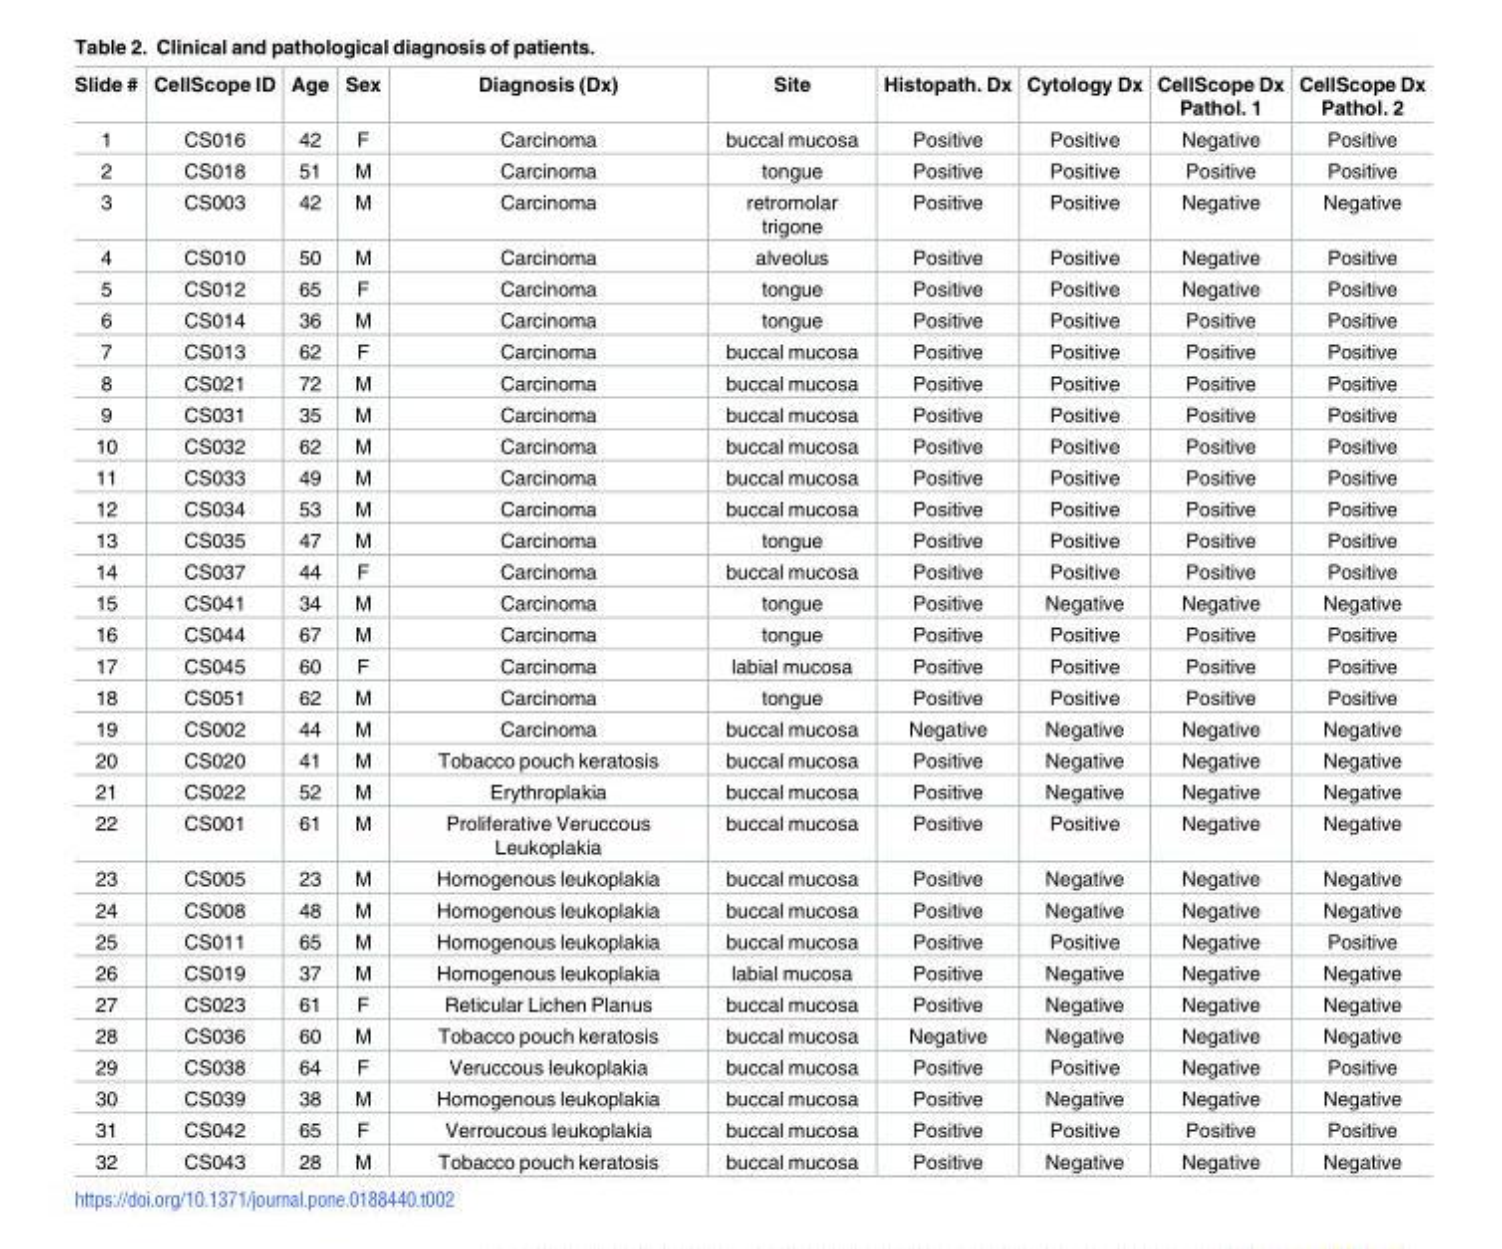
<table><thead><tr><td>Slide #</td><td>CellScope ID</td><td>Age</td><td>Sex</td><td>Diagnosis (Dx)</td><td>Site</td><td>Histopath. Dx</td><td>Cytology Dx</td><td>CellScope Dx Pathol. 1</td><td>CellScope Dx Pathol. 2</td></tr></thead><tbody><tr><td>1</td><td>CS016</td><td>42</td><td>F</td><td>Carcinoma</td><td>buccal mucosa</td><td>Positive</td><td>Positive</td><td>Negative</td><td>Positive</td></tr><tr><td>2</td><td>CS018</td><td>51</td><td>M</td><td>Carcinoma</td><td>tongue</td><td>Positive</td><td>Positive</td><td>Positive</td><td>Positive</td></tr><tr><td>3</td><td>CS003</td><td>42</td><td>M</td><td>Carcinoma</td><td>retromolar trigone</td><td>Positive</td><td>Positive</td><td>Negative</td><td>Negative</td></tr><tr><td>4</td><td>CS010</td><td>50</td><td>M</td><td>Carcinoma</td><td>alveolus</td><td>Positive</td><td>Positive</td><td>Negative</td><td>Positive</td></tr><tr><td>5</td><td>CS012</td><td>65</td><td>F</td><td>Carcinoma</td><td>tongue</td><td>Positive</td><td>Positive</td><td>Negative</td><td>Positive</td></tr><tr><td>6</td><td>CS014</td><td>36</td><td>M</td><td>Carcinoma</td><td>tongue</td><td>Positive</td><td>Positive</td><td>Positive</td><td>Positive</td></tr><tr><td>7</td><td>CS013</td><td>62</td><td>F</td><td>Carcinoma</td><td>buccal mucosa</td><td>Positive</td><td>Positive</td><td>Positive</td><td>Positive</td></tr><tr><td>8</td><td>CS021</td><td>72</td><td>M</td><td>Carcinoma</td><td>buccal mucosa</td><td>Positive</td><td>Positive</td><td>Positive</td><td>Positive</td></tr><tr><td>9</td><td>CS031</td><td>35</td><td>M</td><td>Carcinoma</td><td>buccal mucosa</td><td>Positive</td><td>Positive</td><td>Positive</td><td>Positive</td></tr><tr><td>10</td><td>CS032</td><td>62</td><td>M</td><td>Carcinoma</td><td>buccal mucosa</td><td>Positive</td><td>Positive</td><td>Positive</td><td>Positive</td></tr><tr><td>11</td><td>CS033</td><td>49</td><td>M</td><td>Carcinoma</td><td>buccal mucosa</td><td>Positive</td><td>Positive</td><td>Positive</td><td>Positive</td></tr><tr><td>12</td><td>CS034</td><td>53</td><td>M</td><td>Carcinoma</td><td>buccal mucosa</td><td>Positive</td><td>Positive</td><td>Positive</td><td>Positive</td></tr><tr><td>13</td><td>CS035</td><td>47</td><td>M</td><td>Carcinoma</td><td>tongue</td><td>Positive</td><td>Positive</td><td>Positive</td><td>Positive</td></tr><tr><td>14</td><td>CS037</td><td>44</td><td>F</td><td>Carcinoma</td><td>buccal mucosa</td><td>Positive</td><td>Positive</td><td>Positive</td><td>Positive</td></tr><tr><td>15</td><td>CS041</td><td>34</td><td>M</td><td>Carcinoma</td><td>tongue</td><td>Positive</td><td>Negative</td><td>Negative</td><td>Negative</td></tr><tr><td>16</td><td>CS044</td><td>67</td><td>M</td><td>Carcinoma</td><td>tongue</td><td>Positive</td><td>Positive</td><td>Positive</td><td>Positive</td></tr><tr><td>17</td><td>CS045</td><td>60</td><td>F</td><td>Carcinoma</td><td>labial mucosa</td><td>Positive</td><td>Positive</td><td>Positive</td><td>Positive</td></tr><tr><td>18</td><td>CS051</td><td>62</td><td>M</td><td>Carcinoma</td><td>tongue</td><td>Positive</td><td>Positive</td><td>Positive</td><td>Positive</td></tr><tr><td>19</td><td>CS002</td><td>44</td><td>M</td><td>Carcinoma</td><td>buccal mucosa</td><td>Negative</td><td>Negative</td><td>Negative</td><td>Negative</td></tr><tr><td>20</td><td>CS020</td><td>41</td><td>M</td><td>Tobacco pouch keratosis</td><td>buccal mucosa</td><td>Positive</td><td>Negative</td><td>Negative</td><td>Negative</td></tr><tr><td>21</td><td>CS022</td><td>52</td><td>M</td><td>Erythroplakia</td><td>buccal mucosa</td><td>Positive</td><td>Negative</td><td>Negative</td><td>Negative</td></tr><tr><td>22</td><td>CS001</td><td>61</td><td>M</td><td>Proliferative Veruccous Leukoplakia</td><td>buccal mucosa</td><td>Positive</td><td>Positive</td><td>Negative</td><td>Negative</td></tr><tr><td>23</td><td>CS005</td><td>23</td><td>M</td><td>Homogenous leukoplakia</td><td>buccal mucosa</td><td>Positive</td><td>Negative</td><td>Negative</td><td>Negative</td></tr><tr><td>24</td><td>CS008</td><td>48</td><td>M</td><td>Homogenous leukoplakia</td><td>buccal mucosa</td><td>Positive</td><td>Negative</td><td>Negative</td><td>Negative</td></tr><tr><td>25</td><td>CS011</td><td>65</td><td>M</td><td>Homogenous leukoplakia</td><td>buccal mucosa</td><td>Positive</td><td>Positive</td><td>Negative</td><td>Positive</td></tr><tr><td>26</td><td>CS019</td><td>37</td><td>M</td><td>Homogenous leukoplakia</td><td>labial mucosa</td><td>Positive</td><td>Negative</td><td>Negative</td><td>Negative</td></tr><tr><td>27</td><td>CS023</td><td>61</td><td>F</td><td>Reticular Lichen Planus</td><td>buccal mucosa</td><td>Positive</td><td>Negative</td><td>Negative</td><td>Negative</td></tr><tr><td>28</td><td>CS036</td><td>60</td><td>M</td><td>Tobacco pouch keratosis</td><td>buccal mucosa</td><td>Negative</td><td>Negative</td><td>Negative</td><td>Negative</td></tr><tr><td>29</td><td>CS038</td><td>64</td><td>F</td><td>Veruccous leukoplakia</td><td>buccal mucosa</td><td>Positive</td><td>Positive</td><td>Negative</td><td>Positive</td></tr><tr><td>30</td><td>CS039</td><td>38</td><td>M</td><td>Homogenous leukoplakia</td><td>buccal mucosa</td><td>Positive</td><td>Negative</td><td>Negative</td><td>Negative</td></tr><tr><td>31</td><td>CS042</td><td>65</td><td>F</td><td>Verroucous leukoplakia</td><td>buccal mucosa</td><td>Positive</td><td>Positive</td><td>Positive</td><td>Positive</td></tr><tr><td>32</td><td>CS043</td><td>28</td><td>M</td><td>Tobacco pouch keratosis</td><td>buccal mucosa</td><td>Positive</td><td>Negative</td><td>Negative</td><td>Negative</td></tr></tbody></table>